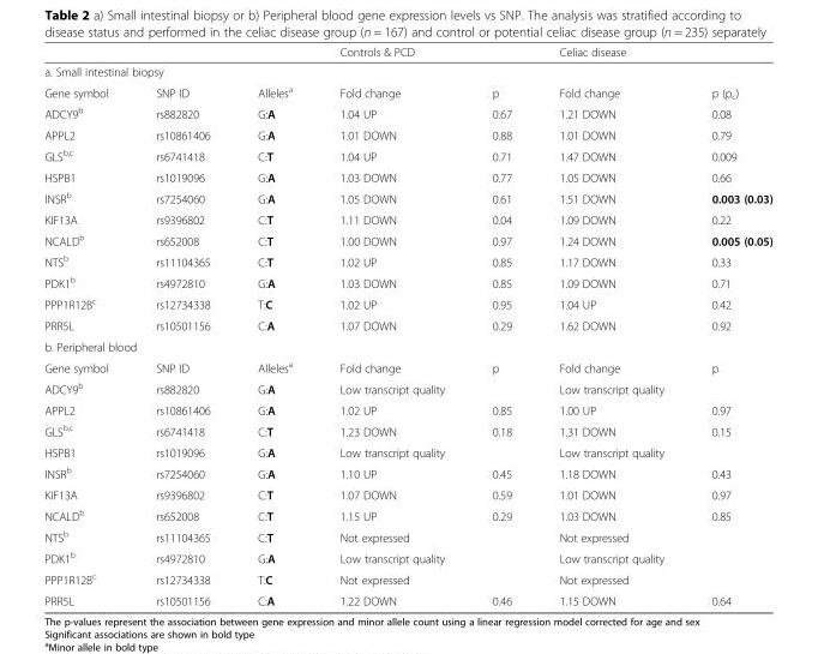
<table><thead><tr><td></td><td></td><td></td><td colspan="2">Controls &amp; PCD</td><td colspan="2">Celiac disease</td></tr><tr><td colspan="7">a. Small intestinal biopsy</td></tr><tr><td>Gene symbol</td><td>SNP ID</td><td>Alleles<sup>a</sup></td><td>Fold change</td><td>p</td><td>Fold change</td><td>p (p<sub>c</sub>)</td></tr></thead><tbody><tr><td>ADCY9<sup>b</sup></td><td>rs882820</td><td>G:A</td><td>1.04 UP</td><td>0.67</td><td>1.21 DOWN</td><td>0.08</td></tr><tr><td>APPL2</td><td>rs10861406</td><td>G:A</td><td>1.01 DOWN</td><td>0.88</td><td>1.01 DOWN</td><td>0.79</td></tr><tr><td>GLS<sup>b,c</sup></td><td>rs6741418</td><td>C:T</td><td>1.04 UP</td><td>0.71</td><td>1.47 DOWN</td><td>0.009</td></tr><tr><td>HSPB1</td><td>rs1019096</td><td>G:A</td><td>1.03 DOWN</td><td>0.77</td><td>1.05 DOWN</td><td>0.66</td></tr><tr><td>INSR<sup>b</sup></td><td>rs7254060</td><td>G:A</td><td>1.05 DOWN</td><td>0.61</td><td>1.51 DOWN</td><td>0.003 (0.03)</td></tr><tr><td>KIF13A</td><td>rs9396802</td><td>C:T</td><td>1.11 DOWN</td><td>0.04</td><td>1.09 DOWN</td><td>0.22</td></tr><tr><td>NCALD<sup>b</sup></td><td>rs652008</td><td>C:T</td><td>1.00 DOWN</td><td>0.97</td><td>1.24 DOWN</td><td>0.005 (0.05)</td></tr><tr><td>NTS<sup>b</sup></td><td>rs11104365</td><td>C:T</td><td>1.02 UP</td><td>0.85</td><td>1.17 DOWN</td><td>0.33</td></tr><tr><td>PDK1<sup>b</sup></td><td>rs4972810</td><td>G:A</td><td>1.03 DOWN</td><td>0.85</td><td>1.09 DOWN</td><td>0.71</td></tr><tr><td>PPP1R12B<sup>c</sup></td><td>rs12734338</td><td>T:C</td><td>1.02 UP</td><td>0.95</td><td>1.04 UP</td><td>0.42</td></tr><tr><td>PRR5L</td><td>rs10501156</td><td>C:A</td><td>1.07 DOWN</td><td>0.29</td><td>1.62 DOWN</td><td>0.92</td></tr><tr><td colspan="7">b. Peripheral blood</td></tr><tr><td>Gene symbol</td><td>SNP ID</td><td>Alleles<sup>a</sup></td><td>Fold change</td><td>p</td><td>Fold change</td><td>p</td></tr><tr><td>ADCY9<sup>b</sup></td><td>rs882820</td><td>G:A</td><td>Low transcript quality</td><td></td><td>Low transcript quality</td><td></td></tr><tr><td>APPL2</td><td>rs10861406</td><td>G:A</td><td>1.02 UP</td><td>0.85</td><td>1.00 UP</td><td>0.97</td></tr><tr><td>GLS<sup>b,c</sup></td><td>rs6741418</td><td>C:T</td><td>1.23 DOWN</td><td>0.18</td><td>1.31 DOWN</td><td>0.15</td></tr><tr><td>HSPB1</td><td>rs1019096</td><td>G:A</td><td>Low transcript quality</td><td></td><td>Low transcript quality</td><td></td></tr><tr><td>INSR<sup>b</sup></td><td>rs7254060</td><td>G:A</td><td>1.10 UP</td><td>0.45</td><td>1.18 DOWN</td><td>0.43</td></tr><tr><td>KIF13A</td><td>rs9396802</td><td>C:T</td><td>1.07 DOWN</td><td>0.59</td><td>1.01 DOWN</td><td>0.97</td></tr><tr><td>NCALD<sup>b</sup></td><td>rs652008</td><td>C:T</td><td>1.15 UP</td><td>0.29</td><td>1.03 DOWN</td><td>0.85</td></tr><tr><td>NTS<sup>b</sup></td><td>rs11104365</td><td>C:T</td><td>Not expressed</td><td></td><td>Not expressed</td><td></td></tr><tr><td>PDK1<sup>b</sup></td><td>rs4972810</td><td>G:A</td><td>Low transcript quality</td><td></td><td>Low transcript quality</td><td></td></tr><tr><td>PPP1R12B<sup>c</sup></td><td>rs12734338</td><td>T:C</td><td>Not expressed</td><td></td><td>Not expressed</td><td></td></tr><tr><td>PRR5L</td><td>rs10501156</td><td>C:A</td><td>1.22 DOWN</td><td>0.46</td><td>1.15 DOWN</td><td>0.64</td></tr></tbody></table>